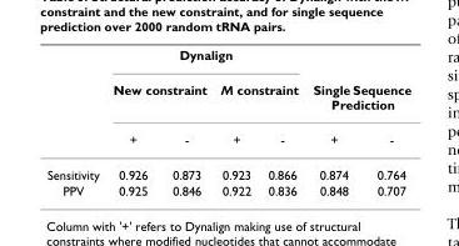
<table><thead><tr><td rowspan="3"></td><td colspan="4">Dynalign</td><td></td><td></td></tr><tr><td colspan="2">New constraint</td><td colspan="2">M constraint</td><td colspan="2">Single Sequence Prediction</td></tr><tr><td>+</td><td>-</td><td>+</td><td>-</td><td>+</td><td>-</td></tr></thead><tbody><tr><td>Sensitivity</td><td>0.926</td><td>0.873</td><td>0.923</td><td>0.866</td><td>0.874</td><td>0.764</td></tr><tr><td>PPV</td><td>0.925</td><td>0.846</td><td>0.922</td><td>0.836</td><td>0.848</td><td>0.707</td></tr></tbody></table>